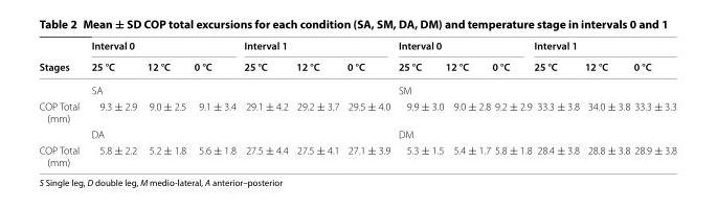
<table><thead><tr><td rowspan="2">Stages</td><td colspan="3">Interval 0</td><td colspan="3">Interval 1</td><td colspan="3">Interval 0</td><td colspan="3">Interval 1</td></tr><tr><td>25 °C</td><td>12 °C</td><td>0 °C</td><td>25 °C</td><td>12 °C</td><td>0 °C</td><td>25 °C</td><td>12 °C</td><td>0 °C</td><td>25 °C</td><td>12 °C</td><td>0 °C</td></tr></thead><tbody><tr><td></td><td colspan="6">SA</td><td colspan="6">SM</td></tr><tr><td rowspan="2">COP Total (mm)</td><td>9.3 ± 2.9</td><td>9.0 ± 2.5</td><td>9.1 ± 3.4</td><td>29.1 ± 4.2</td><td>29.2 ± 3.7</td><td>29.5 ± 4.0</td><td>9.9 ± 3.0</td><td>9.0 ± 2.8</td><td>9.2 ± 2.9</td><td>33.3 ± 3.8</td><td>34.0 ± 3.8</td><td>33.3 ± 3.3</td></tr><tr><td colspan="6">DA</td><td colspan="6">DM</td></tr><tr><td>COP Total (mm)</td><td>5.8 ± 2.2</td><td>5.2 ± 1.8</td><td>5.6 ± 1.8</td><td>27.5 ± 4.4</td><td>27.5 ± 4.1</td><td>27.1 ± 3.9</td><td>5.3 ± 1.5</td><td>5.4 ± 1.7</td><td>5.8 ± 1.8</td><td>28.4 ± 3.8</td><td>28.8 ± 3.8</td><td>28.9 ± 3.8</td></tr></tbody></table>